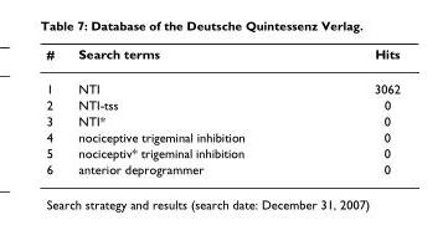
<table><thead><tr><td>#</td><td>Search terms</td><td>Hits</td></tr></thead><tbody><tr><td>1</td><td>NTI</td><td>3062</td></tr><tr><td>2</td><td>NTI-tss</td><td>0</td></tr><tr><td>3</td><td>NTI*</td><td>0</td></tr><tr><td>4</td><td>nociceptive trigeminal inhibition</td><td>0</td></tr><tr><td>5</td><td>nociceptiv* trigeminal inhibition</td><td>0</td></tr><tr><td>6</td><td>anterior deprogrammer</td><td>0</td></tr></tbody></table>